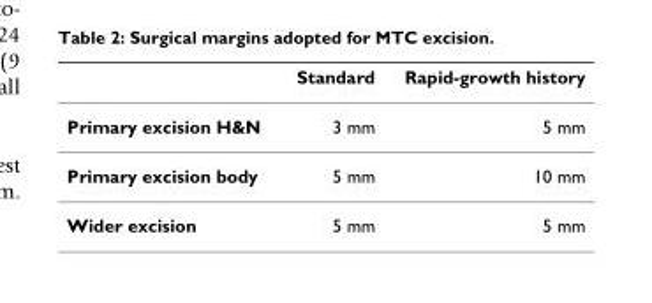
<table><thead><tr><td></td><td>Standard</td><td>Rapid-growth history</td></tr></thead><tbody><tr><td>Primary excision H&amp;N</td><td>3 mm</td><td>5 mm</td></tr><tr><td>Primary excision body</td><td>5 mm</td><td>10 mm</td></tr><tr><td>Wider excision</td><td>5 mm</td><td>5 mm</td></tr></tbody></table>